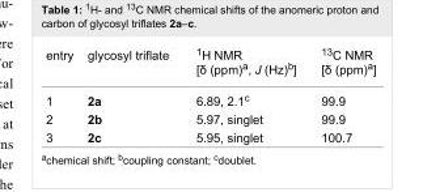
<table><tbody><tr><td>entry</td><td>glycosyl triflate</td><td><sup>1</sup>H NMR [δ (ppm)<sup>a</sup>, J (Hz)<sup>b</sup>]</td><td><sup>13</sup>C NMR [δ (ppm)<sup>a</sup>]</td></tr><tr><td>1</td><td>2a</td><td>6.89, 2.1<sup>c</sup></td><td>99.9</td></tr><tr><td>2</td><td>2b</td><td>5.97, singlet</td><td>99.9</td></tr><tr><td>3</td><td>2c</td><td>5.95, singlet</td><td>100.7</td></tr></tbody></table>